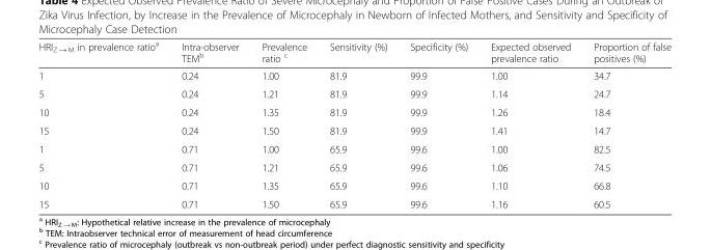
<table><thead><tr><td>HRI<sub>Z → M</sub> in prevalence ratio<sup>a</sup></td><td>Intra-observer TEM<sup>b</sup></td><td>Prevalence ratio <sup>c</sup></td><td>Sensitivity (%)</td><td>Specificity (%)</td><td>Expected observed prevalence ratio</td><td>Proportion of false positives (%)</td></tr></thead><tbody><tr><td>1</td><td>0.24</td><td>1.00</td><td>81.9</td><td>99.9</td><td>1.00</td><td>34.7</td></tr><tr><td>5</td><td>0.24</td><td>1.21</td><td>81.9</td><td>99.9</td><td>1.14</td><td>24.7</td></tr><tr><td>10</td><td>0.24</td><td>1.35</td><td>81.9</td><td>99.9</td><td>1.26</td><td>18.4</td></tr><tr><td>15</td><td>0.24</td><td>1.50</td><td>81.9</td><td>99.9</td><td>1.41</td><td>14.7</td></tr><tr><td>1</td><td>0.71</td><td>1.00</td><td>65.9</td><td>99.6</td><td>1.00</td><td>82.5</td></tr><tr><td>5</td><td>0.71</td><td>1.21</td><td>65.9</td><td>99.6</td><td>1.06</td><td>74.5</td></tr><tr><td>10</td><td>0.71</td><td>1.35</td><td>65.9</td><td>99.6</td><td>1.10</td><td>66.8</td></tr><tr><td>15</td><td>0.71</td><td>1.50</td><td>65.9</td><td>99.6</td><td>1.16</td><td>60.5</td></tr></tbody></table>